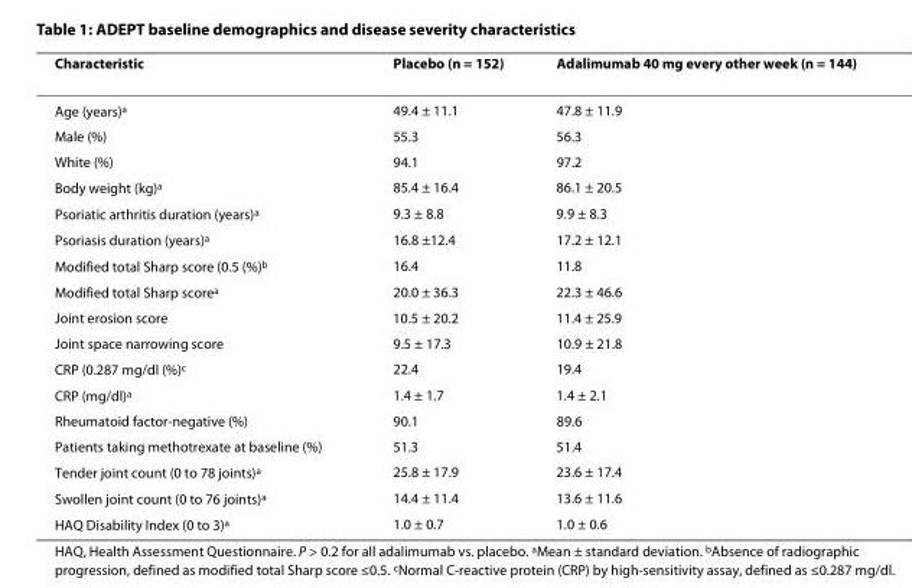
<table><thead><tr><td>Characteristic</td><td>Placebo (n = 152)</td><td>Adalimumab 40 mg every other week (n = 144)</td></tr></thead><tbody><tr><td>Age (years)<sup>a</sup></td><td>49.4 ± 11.1</td><td>47.8 ± 11.9</td></tr><tr><td>Male (%)</td><td>55.3</td><td>56.3</td></tr><tr><td>White (%)</td><td>94.1</td><td>97.2</td></tr><tr><td>Body weight (kg)<sup>a</sup></td><td>85.4 ± 16.4</td><td>86.1 ± 20.5</td></tr><tr><td>Psoriatic arthritis duration (years)<sup>a</sup></td><td>9.3 ± 8.8</td><td>9.9 ± 8.3</td></tr><tr><td>Psoriasis duration (years)<sup>a</sup></td><td>16.8 ±12.4</td><td>17.2 ± 12.1</td></tr><tr><td>Modified total Sharp score (0.5 (%)<sup>b</sup></td><td>16.4</td><td>11.8</td></tr><tr><td>Modified total Sharp score<sup>a</sup></td><td>20.0 ± 36.3</td><td>22.3 ± 46.6</td></tr><tr><td>Joint erosion score</td><td>10.5 ± 20.2</td><td>11.4 ± 25.9</td></tr><tr><td>Joint space narrowing score</td><td>9.5 ± 17.3</td><td>10.9 ± 21.8</td></tr><tr><td>CRP (0.287 mg/dl (%)<sup>c</sup></td><td>22.4</td><td>19.4</td></tr><tr><td>CRP (mg/dl)<sup>a</sup></td><td>1.4 ± 1.7</td><td>1.4 ± 2.1</td></tr><tr><td>Rheumatoid factor-negative (%)</td><td>90.1</td><td>89.6</td></tr><tr><td>Patients taking methotrexate at baseline (%)</td><td>51.3</td><td>51.4</td></tr><tr><td>Tender joint count (0 to 78 joints)<sup>a</sup></td><td>25.8 ± 17.9</td><td>23.6 ± 17.4</td></tr><tr><td>Swollen joint count (0 to 76 joints)<sup>a</sup></td><td>14.4 ± 11.4</td><td>13.6 ± 11.6</td></tr><tr><td>HAQ Disability Index (0 to 3)<sup>a</sup></td><td>1.0 ± 0.7</td><td>1.0 ± 0.6</td></tr></tbody></table>